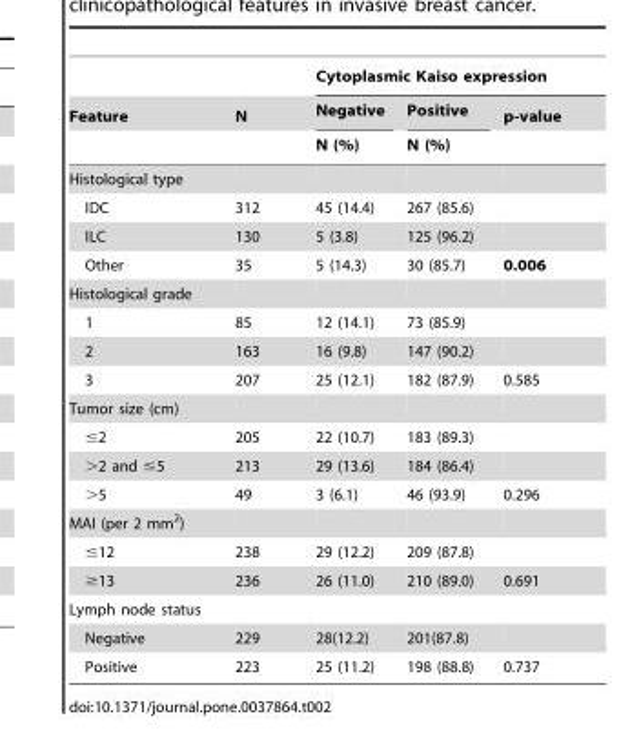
<table><thead><tr><td rowspan="3">Feature</td><td rowspan="3">N</td><td colspan="3">Cytoplasmic Kaiso expression</td></tr><tr><td rowspan="2">Negative N (%)</td><td rowspan="2">Positive N (%)</td><td rowspan="2">p-value</td></tr><tr></tr></thead><tbody><tr><td colspan="5">Histological type</td></tr><tr><td>IDC</td><td>312</td><td>45 (14.4)</td><td>267 (85.6)</td><td></td></tr><tr><td>ILC</td><td>130</td><td>5 (3.8)</td><td>125 (96.2)</td><td></td></tr><tr><td>Other</td><td>35</td><td>5 (14.3)</td><td>30 (85.7)</td><td>0.006</td></tr><tr><td colspan="5">Histological grade</td></tr><tr><td>1</td><td>85</td><td>12 (14.1)</td><td>73 (85.9)</td><td></td></tr><tr><td>2</td><td>163</td><td>16 (9.8)</td><td>147 (90.2)</td><td></td></tr><tr><td>3</td><td>207</td><td>25 (12.1)</td><td>182 (87.9)</td><td>0.585</td></tr><tr><td colspan="5">Tumor size (cm)</td></tr><tr><td>≤2</td><td>205</td><td>22 (10.7)</td><td>183 (89.3)</td><td></td></tr><tr><td>&gt;2 and ≤5</td><td>213</td><td>29 (13.6)</td><td>184 (86.4)</td><td></td></tr><tr><td>&gt;5</td><td>49</td><td>3 (6.1)</td><td>46 (93.9)</td><td>0.296</td></tr><tr><td colspan="5">MAI (per 2 mm<sup>2</sup>)</td></tr><tr><td>≤12</td><td>238</td><td>29 (12.2)</td><td>209 (87.8)</td><td></td></tr><tr><td>≥13</td><td>236</td><td>26 (11.0)</td><td>210 (89.0)</td><td>0.691</td></tr><tr><td colspan="5">Lymph node status</td></tr><tr><td>Negative</td><td>229</td><td>28(12.2)</td><td>201(87.8)</td><td></td></tr><tr><td>Positive</td><td>223</td><td>25 (11.2)</td><td>198 (88.8)</td><td>0.737</td></tr></tbody></table>